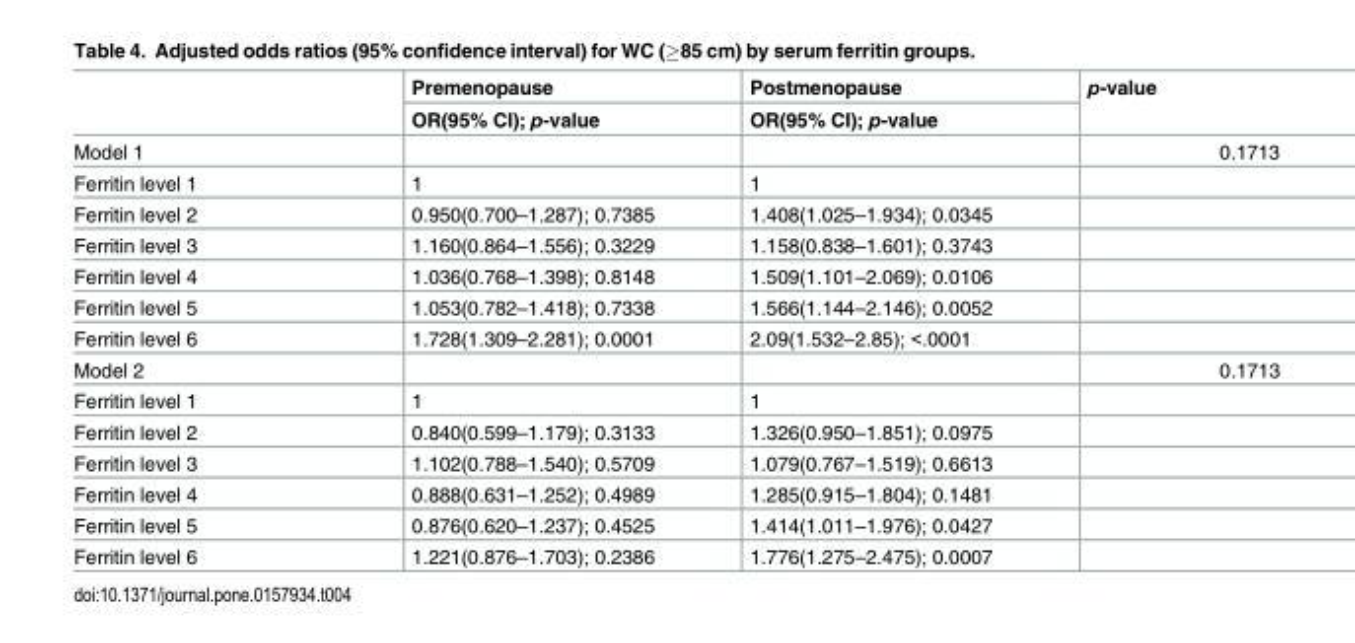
<table><thead><tr><td rowspan="2"></td><td rowspan="2">Premenopause OR(95% CI); p-value</td><td rowspan="2">Postmenopause OR(95% CI); p-value</td><td rowspan="2">p-value</td></tr><tr></tr></thead><tbody><tr><td>Model 1</td><td></td><td></td><td>0.1713</td></tr><tr><td>Ferritin level 1</td><td>1</td><td>1</td><td></td></tr><tr><td>Ferritin level 2</td><td>0.950(0.700–1.287); 0.7385</td><td>1.408(1.025–1.934); 0.0345</td><td></td></tr><tr><td>Ferritin level 3</td><td>1.160(0.864–1.556); 0.3229</td><td>1.158(0.838–1.601); 0.3743</td><td></td></tr><tr><td>Ferritin level 4</td><td>1.036(0.768–1.398); 0.8148</td><td>1.509(1.101–2.069); 0.0106</td><td></td></tr><tr><td>Ferritin level 5</td><td>1.053(0.782–1.418); 0.7338</td><td>1.566(1.144–2.146); 0.0052</td><td></td></tr><tr><td>Ferritin level 6</td><td>1.728(1.309–2.281); 0.0001</td><td>2.09(1.532–2.85); &lt;.0001</td><td></td></tr><tr><td>Model 2</td><td></td><td></td><td>0.1713</td></tr><tr><td>Ferritin level 1</td><td>1</td><td>1</td><td></td></tr><tr><td>Ferritin level 2</td><td>0.840(0.599–1.179); 0.3133</td><td>1.326(0.950–1.851); 0.0975</td><td></td></tr><tr><td>Ferritin level 3</td><td>1.102(0.788–1.540); 0.5709</td><td>1.079(0.767–1.519); 0.6613</td><td></td></tr><tr><td>Ferritin level 4</td><td>0.888(0.631–1.252); 0.4989</td><td>1.285(0.915–1.804); 0.1481</td><td></td></tr><tr><td>Ferritin level 5</td><td>0.876(0.620–1.237); 0.4525</td><td>1.414(1.011–1.976); 0.0427</td><td></td></tr><tr><td>Ferritin level 6</td><td>1.221(0.876–1.703); 0.2386</td><td>1.776(1.275–2.475); 0.0007</td><td></td></tr></tbody></table>